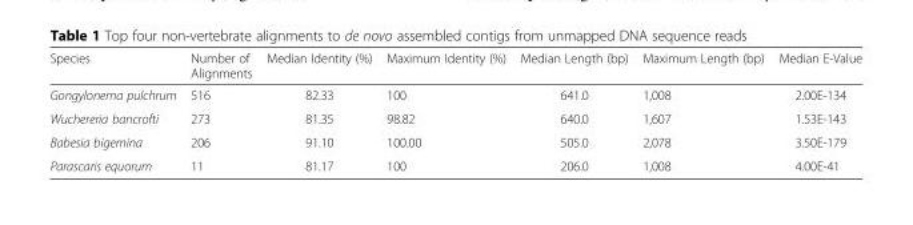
<table><thead><tr><td>Species</td><td>Number of Alignments</td><td>Median Identity (%)</td><td>Maximum Identity (%)</td><td>Median Length (bp)</td><td>Maximum Length (bp)</td><td>Median E-Value</td></tr></thead><tbody><tr><td>Gongylonema pulchrum</td><td>516</td><td>82.33</td><td>100</td><td>641.0</td><td>1,008</td><td>2.00E-134</td></tr><tr><td>Wuchereria bancrofti</td><td>273</td><td>81.35</td><td>98.82</td><td>640.0</td><td>1,607</td><td>1.53E-143</td></tr><tr><td>Babesia bigemina</td><td>206</td><td>91.10</td><td>100.00</td><td>505.0</td><td>2,078</td><td>3.50E-179</td></tr><tr><td>Parascaris equorum</td><td>11</td><td>81.17</td><td>100</td><td>206.0</td><td>1,008</td><td>4.00E-41</td></tr></tbody></table>